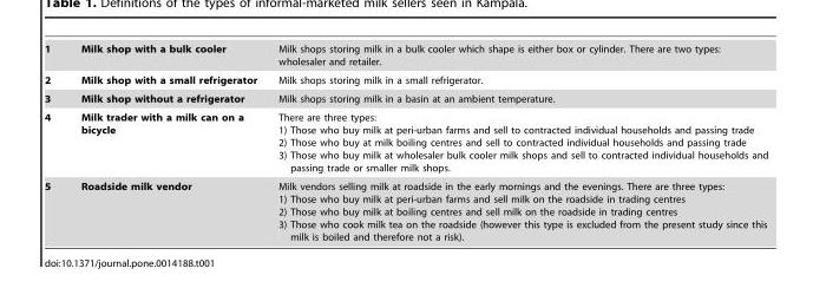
<table><tbody><tr><td>1</td><td>Milk shop with a bulk cooler</td><td>Milk shops storing milk in a bulk cooler which shape is either box or cylinder. There are two types: wholesaler and retailer.</td></tr><tr><td>2</td><td>Milk shop with a small refrigerator</td><td>Milk shops storing milk in a small refrigerator.</td></tr><tr><td>3</td><td>Milk shop without a refrigerator</td><td>Milk shops storing milk in a basin at an ambient temperature.</td></tr><tr><td>4</td><td>Milk trader with a milk can on a bicycle</td><td>There are three types: 1) Those who buy milk at peri-urban farms and sell to contracted individual households and passing trade 2) Those who buy at milk boiling centres and sell to contracted individual households and passing trade 3) Those who buy milk at wholesaler bulk cooler milk shops and sell to contracted individual households and passing trade or smaller milk shops.</td></tr><tr><td>5</td><td>Roadside milk vendor</td><td>Milk vendors selling milk at roadside in the early mornings and the evenings. There are three types: 1) Those who buy milk at peri-urban farms and sell milk on the roadside in trading centres 2) Those who buy milk at boiling centres and sell milk on the roadside in trading centres 3) Those who cook milk tea on the roadside (however this type is excluded from the present study since this milk is boiled and therefore not a risk).</td></tr></tbody></table>